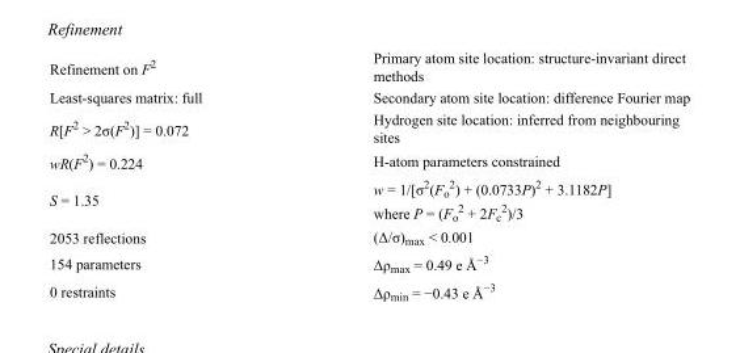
<table><tbody><tr><td>Refinement on F<sup>2</sup></td><td>Primary atom site location: structure-invariant direct methods</td></tr><tr><td>Least-squares matrix: full</td><td>Secondary atom site location: difference Fourier map</td></tr><tr><td>R[F<sup>2</sup> &gt; 2σ(F<sup>2</sup>)] = 0.072</td><td>Hydrogen site location: inferred from neighbouring sites</td></tr><tr><td>wR(F<sup>2</sup>) = 0.224</td><td>H-atom parameters constrained</td></tr><tr><td>S = 1.35</td><td>w = 1/[σ<sup>2</sup>(F<sub>o</sub> <sup>2</sup>) + (0.0733P)<sup>2</sup> + 3.1182P] where P = (F<sub>o</sub> <sup>2</sup> + 2F<sub>c</sub> <sup>2</sup>)/3</td></tr><tr><td>2053 reflections</td><td>(Δ/σ)<sub>max</sub> &lt; 0.001</td></tr><tr><td>154 parameters</td><td>Δρ<sub>max</sub> = 0.49 e Å<sup>−3</sup></td></tr><tr><td>0 restraints</td><td>Δρ<sub>min</sub> = −0.43 e Å<sup>−3</sup></td></tr></tbody></table>